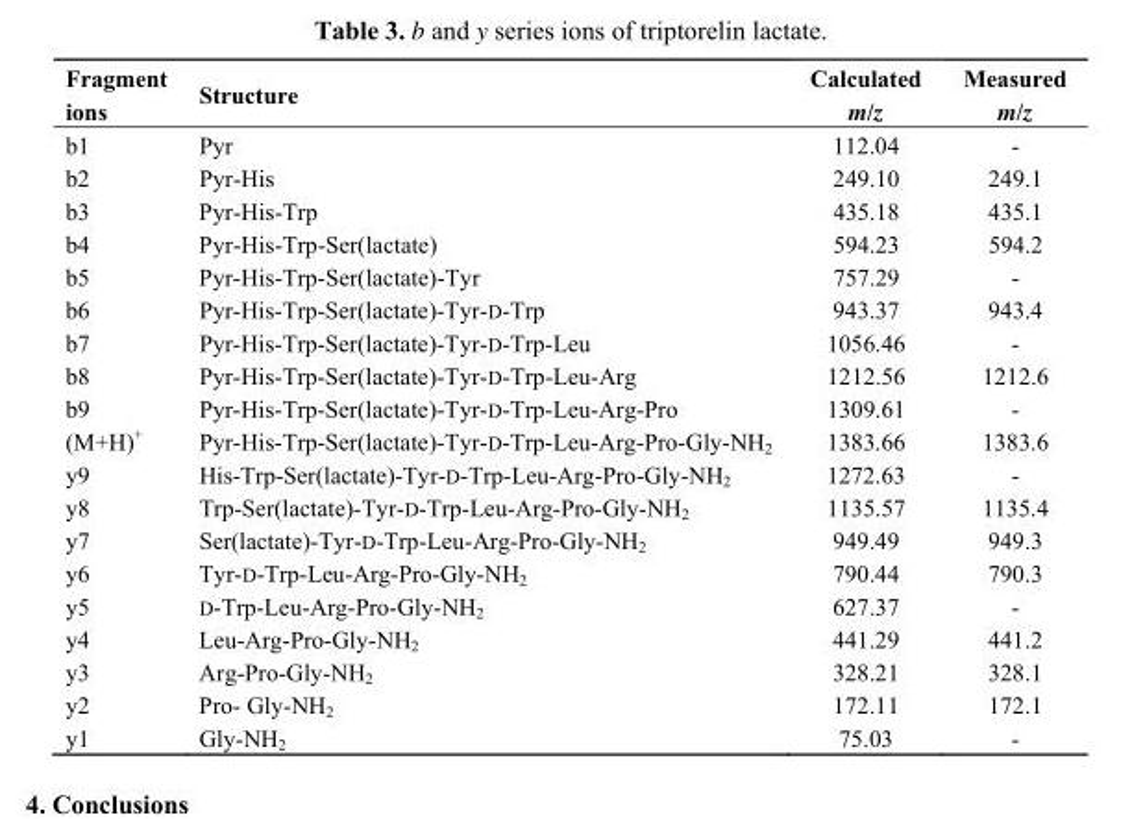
<table><thead><tr><td>Fragment ions</td><td>Structure</td><td>Calculated m/z</td><td>Measured m/z</td></tr></thead><tbody><tr><td>b1</td><td>Pyr</td><td>112.04</td><td>-</td></tr><tr><td>b2</td><td>Pyr-His</td><td>249.10</td><td>249.1</td></tr><tr><td>b3</td><td>Pyr-His-Trp</td><td>435.18</td><td>435.1</td></tr><tr><td>b4</td><td>Pyr-His-Trp-Ser(lactate)</td><td>594.23</td><td>594.2</td></tr><tr><td>b5</td><td>Pyr-His-Trp-Ser(lactate)-Tyr</td><td>757.29</td><td>-</td></tr><tr><td>b6</td><td>Pyr-His-Trp-Ser(lactate)-Tyr-D-Trp</td><td>943.37</td><td>943.4</td></tr><tr><td>b7</td><td>Pyr-His-Trp-Ser(lactate)-Tyr-D-Trp-Leu</td><td>1056.46</td><td>-</td></tr><tr><td>b8</td><td>Pyr-His-Trp-Ser(lactate)-Tyr-D-Trp-Leu-Arg</td><td>1212.56</td><td>1212.6</td></tr><tr><td>b9</td><td>Pyr-His-Trp-Ser(lactate)-Tyr-D-Trp-Leu-Arg-Pro</td><td>1309.61</td><td>-</td></tr><tr><td>(M+H)<sup>+</sup></td><td>Pyr-His-Trp-Ser(lactate)-Tyr-D-Trp-Leu-Arg-Pro-Gly-NH<sub>2</sub></td><td>1383.66</td><td>1383.6</td></tr><tr><td>y9</td><td>His-Trp-Ser(lactate)-Tyr-D-Trp-Leu-Arg-Pro-Gly-NH<sub>2</sub></td><td>1272.63</td><td>-</td></tr><tr><td>y8</td><td>Trp-Ser(lactate)-Tyr-D-Trp-Leu-Arg-Pro-Gly-NH<sub>2</sub></td><td>1135.57</td><td>1135.4</td></tr><tr><td>y7</td><td>Ser(lactate)-Tyr-D-Trp-Leu-Arg-Pro-Gly-NH<sub>2</sub></td><td>949.49</td><td>949.3</td></tr><tr><td>y6</td><td>Tyr-D-Trp-Leu-Arg-Pro-Gly-NH<sub>2</sub></td><td>790.44</td><td>790.3</td></tr><tr><td>y5</td><td>D-Trp-Leu-Arg-Pro-Gly-NH<sub>2</sub></td><td>627.37</td><td>-</td></tr><tr><td>y4</td><td>Leu-Arg-Pro-Gly-NH<sub>2</sub></td><td>441.29</td><td>441.2</td></tr><tr><td>y3</td><td>Arg-Pro-Gly-NH<sub>2</sub></td><td>328.21</td><td>328.1</td></tr><tr><td>y2</td><td>Pro- Gly-NH<sub>2</sub></td><td>172.11</td><td>172.1</td></tr><tr><td>y1</td><td>Gly-NH<sub>2</sub></td><td>75.03</td><td>-</td></tr></tbody></table>